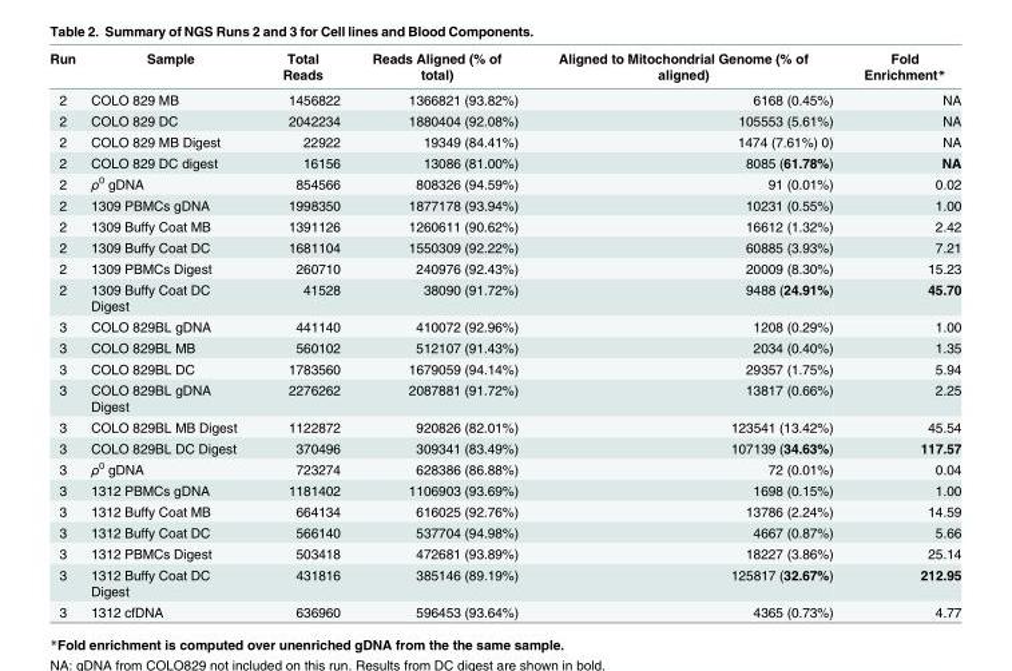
<table><thead><tr><td>Run</td><td>Sample</td><td>Total Reads</td><td>Reads Aligned (% of total)</td><td>Aligned to Mitochondrial Genome (% of aligned)</td><td>Fold Enrichment*</td></tr></thead><tbody><tr><td>2</td><td>COLO 829 MB</td><td>1456822</td><td>1366821 (93.82%)</td><td>6168 (0.45%)</td><td>NA</td></tr><tr><td>2</td><td>COLO 829 DC</td><td>2042234</td><td>1880404 (92.08%)</td><td>105553 (5.61%)</td><td>NA</td></tr><tr><td>2</td><td>COLO 829 MB Digest</td><td>22922</td><td>19349 (84.41%)</td><td>1474 (7.61%) 0)</td><td>NA</td></tr><tr><td>2</td><td>COLO 829 DC digest</td><td>16156</td><td>13086 (81.00%)</td><td>8085 (61.78%)</td><td>NA</td></tr><tr><td>2</td><td>ρ<sup>0</sup> gDNA</td><td>854566</td><td>808326 (94.59%)</td><td>91 (0.01%)</td><td>0.02</td></tr><tr><td>2</td><td>1309 PBMCs gDNA</td><td>1998350</td><td>1877178 (93.94%)</td><td>10231 (0.55%)</td><td>1.00</td></tr><tr><td>2</td><td>1309 Buffy Coat MB</td><td>1391126</td><td>1260611 (90.62%)</td><td>16612 (1.32%)</td><td>2.42</td></tr><tr><td>2</td><td>1309 Buffy Coat DC</td><td>1681104</td><td>1550309 (92.22%)</td><td>60885 (3.93%)</td><td>7.21</td></tr><tr><td>2</td><td>1309 PBMCs Digest</td><td>260710</td><td>240976 (92.43%)</td><td>20009 (8.30%)</td><td>15.23</td></tr><tr><td>2</td><td>1309 Buffy Coat DC Digest</td><td>41528</td><td>38090 (91.72%)</td><td>9488 (24.91%)</td><td>45.70</td></tr><tr><td>3</td><td>COLO 829BL gDNA</td><td>441140</td><td>410072 (92.96%)</td><td>1208 (0.29%)</td><td>1.00</td></tr><tr><td>3</td><td>COLO 829BL MB</td><td>560102</td><td>512107 (91.43%)</td><td>2034 (0.40%)</td><td>1.35</td></tr><tr><td>3</td><td>COLO 829BL DC</td><td>1783560</td><td>1679059 (94.14%)</td><td>29357 (1.75%)</td><td>5.94</td></tr><tr><td>3</td><td>COLO 829BL gDNA Digest</td><td>2276262</td><td>2087881 (91.72%)</td><td>13817 (0.66%)</td><td>2.25</td></tr><tr><td>3</td><td>COLO 829BL MB Digest</td><td>1122872</td><td>920826 (82.01%)</td><td>123541 (13.42%)</td><td>45.54</td></tr><tr><td>3</td><td>COLO 829BL DC Digest</td><td>370496</td><td>309341 (83.49%)</td><td>107139 (34.63%)</td><td>117.57</td></tr><tr><td>3</td><td>ρ<sup>0</sup> gDNA</td><td>723274</td><td>628386 (86.88%)</td><td>72 (0.01%)</td><td>0.04</td></tr><tr><td>3</td><td>1312 PBMCs gDNA</td><td>1181402</td><td>1106903 (93.69%)</td><td>1698 (0.15%)</td><td>1.00</td></tr><tr><td>3</td><td>1312 Buffy Coat MB</td><td>664134</td><td>616025 (92.76%)</td><td>13786 (2.24%)</td><td>14.59</td></tr><tr><td>3</td><td>1312 Buffy Coat DC</td><td>566140</td><td>537704 (94.98%)</td><td>4667 (0.87%)</td><td>5.66</td></tr><tr><td>3</td><td>1312 PBMCs Digest</td><td>503418</td><td>472681 (93.89%)</td><td>18227 (3.86%)</td><td>25.14</td></tr><tr><td>3</td><td>1312 Buffy Coat DC Digest</td><td>431816</td><td>385146 (89.19%)</td><td>125817 (32.67%)</td><td>212.95</td></tr><tr><td>3</td><td>1312 cfDNA</td><td>636960</td><td>596453 (93.64%)</td><td>4365 (0.73%)</td><td>4.77</td></tr></tbody></table>